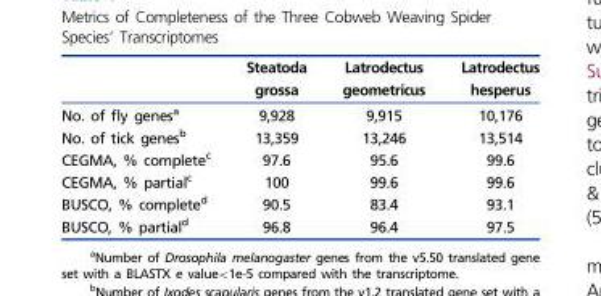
<table><thead><tr><td></td><td>Steatoda grossa</td><td>Latrodectus geometricus</td><td>Latrodectus hesperus</td></tr></thead><tbody><tr><td>No. of fly genes<sup>a</sup></td><td>9,928</td><td>9,915</td><td>10,176</td></tr><tr><td>No. of tick genes<sup>b</sup></td><td>13,359</td><td>13,246</td><td>13,514</td></tr><tr><td>CEGMA, % complete<sup>c</sup></td><td>97.6</td><td>95.6</td><td>99.6</td></tr><tr><td>CEGMA, % partial<sup>c</sup></td><td>100</td><td>99.6</td><td>99.6</td></tr><tr><td>BUSCO, % complete<sup>d</sup></td><td>90.5</td><td>83.4</td><td>93.1</td></tr><tr><td>BUSCO, % partial<sup>d</sup></td><td>96.8</td><td>96.4</td><td>97.5</td></tr></tbody></table>